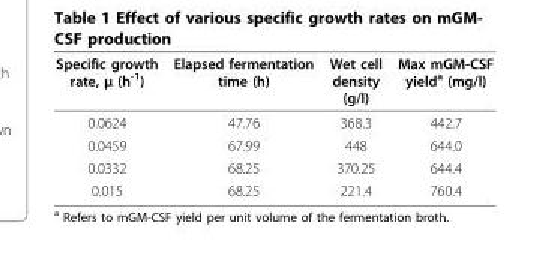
<table><thead><tr><td>Specific growth rate, μ (h<sup>-1</sup>)</td><td>Elapsed fermentation time (h)</td><td>Wet cell density (g/l)</td><td>Max mGM-CSF yield<sup>a</sup> (mg/l)</td></tr></thead><tbody><tr><td>0.0624</td><td>47.76</td><td>368.3</td><td>442.7</td></tr><tr><td>0.0459</td><td>67.99</td><td>448</td><td>644.0</td></tr><tr><td>0.0332</td><td>68.25</td><td>370.25</td><td>644.4</td></tr><tr><td>0.015</td><td>68.25</td><td>221.4</td><td>760.4</td></tr></tbody></table>